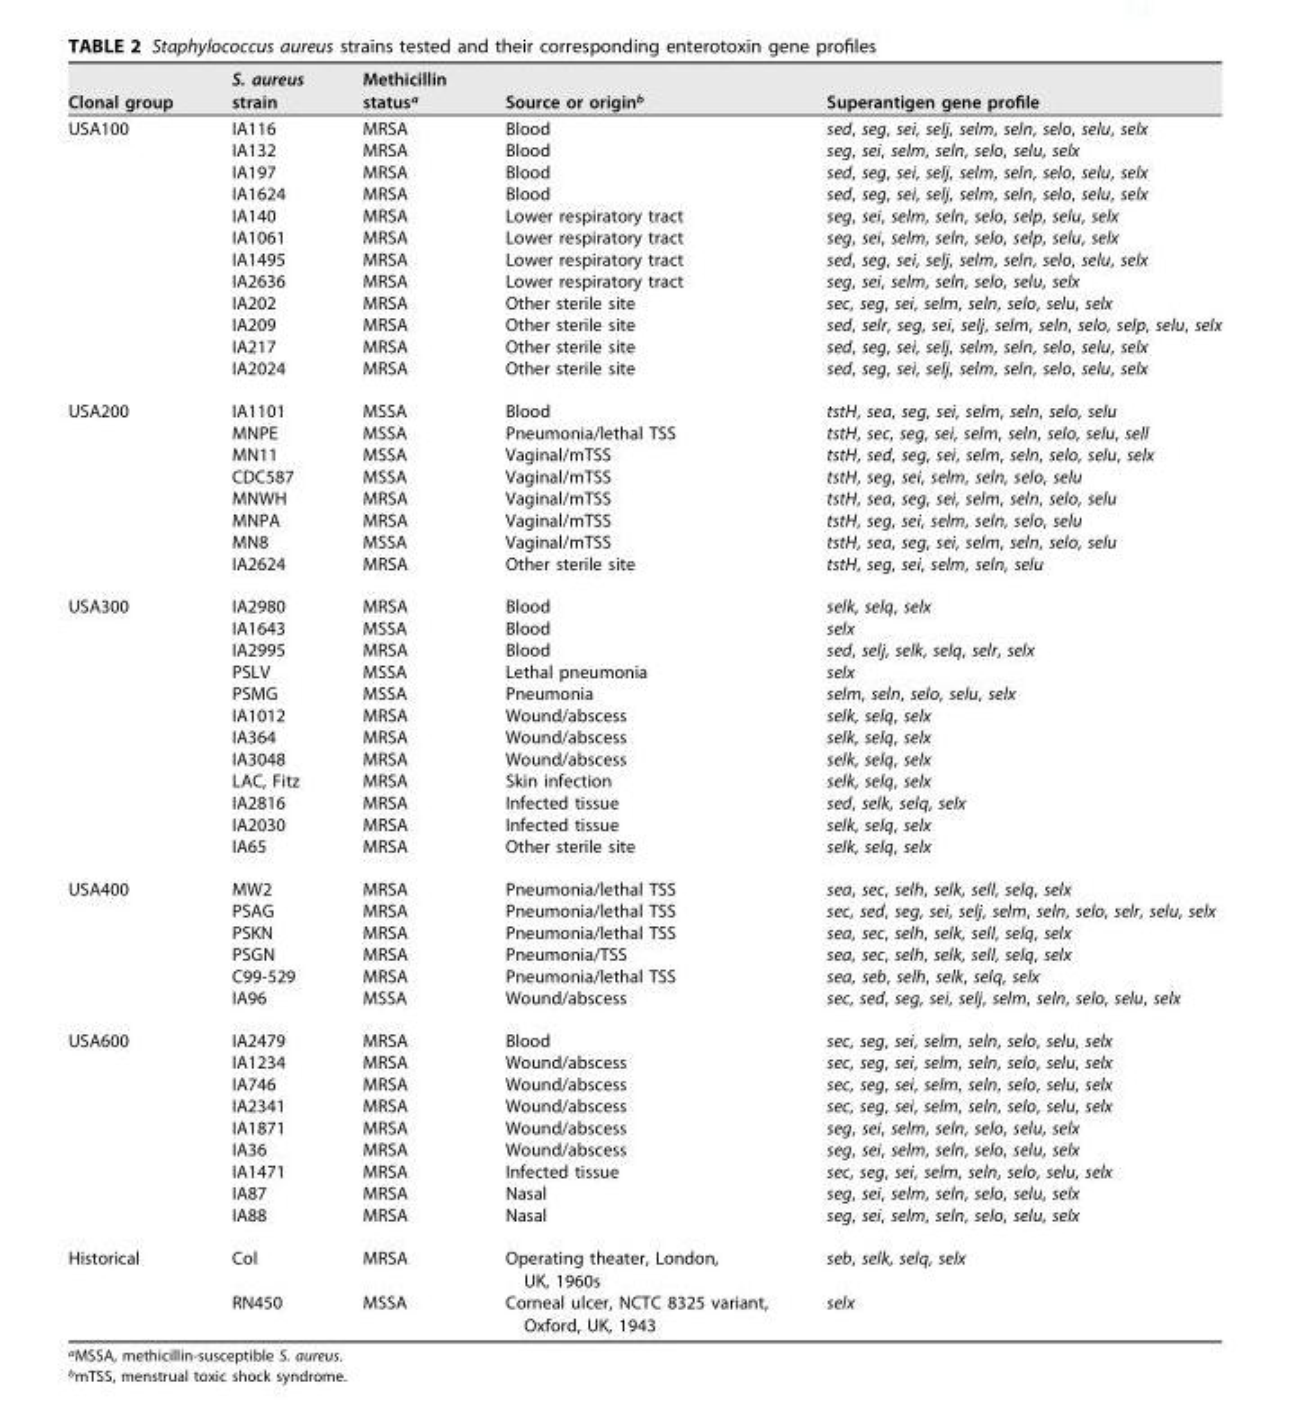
<table><thead><tr><td>Clonal group</td><td>S. aureus strain</td><td>Methicillin status<sup>a</sup></td><td>Source or origin<sup>b</sup></td><td>Superantigen gene profile</td></tr></thead><tbody><tr><td rowspan="12">USA100</td><td>IA116</td><td>MRSA</td><td>Blood</td><td>sed, seg, sei, selj, selm, seln, selo, selu, selx</td></tr><tr><td>IA132</td><td>MRSA</td><td>Blood</td><td>seg, sei, selm, seln, selo, selu, selx</td></tr><tr><td>IA197</td><td>MRSA</td><td>Blood</td><td>sed, seg, sei, selj, selm, seln, selo, selu, selx</td></tr><tr><td>IA1624</td><td>MRSA</td><td>Blood</td><td>sed, seg, sei, selj, selm, seln, selo, selu, selx</td></tr><tr><td>IA140</td><td>MRSA</td><td>Lower respiratory tract</td><td>seg, sei, selm, seln, selo, selp, selu, selx</td></tr><tr><td>IA1061</td><td>MRSA</td><td>Lower respiratory tract</td><td>seg, sei, selm, seln, selo, selp, selu, selx</td></tr><tr><td>IA1495</td><td>MRSA</td><td>Lower respiratory tract</td><td>sed, seg, sei, selj, selm, seln, selo, selu, selx</td></tr><tr><td>IA2636</td><td>MRSA</td><td>Lower respiratory tract</td><td>seg, sei, selm, seln, selo, selu, selx</td></tr><tr><td>IA202</td><td>MRSA</td><td>Other sterile site</td><td>sec, seg, sei, selm, seln, selo, selu, selx</td></tr><tr><td>IA209</td><td>MRSA</td><td>Other sterile site</td><td>sed, selr, seg, sei, selj, selm, seln, selo, selp, selu, selx</td></tr><tr><td>IA217</td><td>MRSA</td><td>Other sterile site</td><td>sed, seg, sei, selj, selm, seln, selo, selu, selx</td></tr><tr><td>IA2024</td><td>MRSA</td><td>Other sterile site</td><td>sed, seg, sei, selj, selm, seln, selo, selu, selx</td></tr><tr><td rowspan="8">USA200</td><td>IA1101</td><td>MSSA</td><td>Blood</td><td>tstH, sea, seg, sei, selm, seln, selo, selu</td></tr><tr><td>MNPE</td><td>MSSA</td><td>Pneumonia/lethal TSS</td><td>tstH, sec, seg, sei, selm, seln, selo, selu, sell</td></tr><tr><td>MN11</td><td>MSSA</td><td>Vaginal/mTSS</td><td>tstH, sed, seg, sei, selm, seln, selo, selu, selx</td></tr><tr><td>CDC587</td><td>MSSA</td><td>Vaginal/mTSS</td><td>tstH, seg, sei, selm, seln, selo, selu</td></tr><tr><td>MNWH</td><td>MRSA</td><td>Vaginal/mTSS</td><td>tstH, sea, seg, sei, selm, seln, selo, selu</td></tr><tr><td>MNPA</td><td>MRSA</td><td>Vaginal/mTSS</td><td>tstH, seg, sei, selm, seln, selo, selu</td></tr><tr><td>MN8</td><td>MSSA</td><td>Vaginal/mTSS</td><td>tstH, sea, seg, sei, selm, seln, selo, selu</td></tr><tr><td>IA2624</td><td>MRSA</td><td>Other sterile site</td><td>tstH, seg, sei, selm, seln, selu</td></tr><tr><td rowspan="12">USA300</td><td>IA2980</td><td>MRSA</td><td>Blood</td><td>selk, selq, selx</td></tr><tr><td>IA1643</td><td>MSSA</td><td>Blood</td><td>selx</td></tr><tr><td>IA2995</td><td>MRSA</td><td>Blood</td><td>sed, selj, selk, selq, selr, selx</td></tr><tr><td>PSLV</td><td>MSSA</td><td>Lethal pneumonia</td><td>selx</td></tr><tr><td>PSMG</td><td>MSSA</td><td>Pneumonia</td><td>selm, seln, selo, selu, selx</td></tr><tr><td>IA1012</td><td>MRSA</td><td>Wound/abscess</td><td>selk, selq, selx</td></tr><tr><td>IA364</td><td>MRSA</td><td>Wound/abscess</td><td>selk, selq, selx</td></tr><tr><td>IA3048</td><td>MRSA</td><td>Wound/abscess</td><td>selk, selq, selx</td></tr><tr><td>LAC, Fitz</td><td>MRSA</td><td>Skin infection</td><td>selk, selq, selx</td></tr><tr><td>IA2816</td><td>MRSA</td><td>Infected tissue</td><td>sed, selk, selq, selx</td></tr><tr><td>IA2030</td><td>MRSA</td><td>Infected tissue</td><td>selk, selq, selx</td></tr><tr><td>IA65</td><td>MRSA</td><td>Other sterile site</td><td>selk, selq, selx</td></tr><tr><td rowspan="6">USA400</td><td>MW2</td><td>MRSA</td><td>Pneumonia/lethal TSS</td><td>sea, sec, selh, selk, sell, selq, selx</td></tr><tr><td>PSAG</td><td>MRSA</td><td>Pneumonia/lethal TSS</td><td>sec, sed, seg, sei, selj, selm, seln, selo, selr, selu, selx</td></tr><tr><td>PSKN</td><td>MRSA</td><td>Pneumonia/lethal TSS</td><td>sea, sec, selh, selk, sell, selq, selx</td></tr><tr><td>PSGN</td><td>MRSA</td><td>Pneumonia/TSS</td><td>sea, sec, selh, selk, sell, selq, selx</td></tr><tr><td>C99-529</td><td>MRSA</td><td>Pneumonia/lethal TSS</td><td>sea, seb, selh, selk, selq, selx</td></tr><tr><td>IA96</td><td>MSSA</td><td>Wound/abscess</td><td>sec, sed, seg, sei, selj, selm, seln, selo, selu, selx</td></tr><tr><td rowspan="9">USA600</td><td>IA2479</td><td>MRSA</td><td>Blood</td><td>sec, seg, sei, selm, seln, selo, selu, selx</td></tr><tr><td>IA1234</td><td>MRSA</td><td>Wound/abscess</td><td>sec, seg, sei, selm, seln, selo, selu, selx</td></tr><tr><td>IA746</td><td>MRSA</td><td>Wound/abscess</td><td>sec, seg, sei, selm, seln, selo, selu, selx</td></tr><tr><td>IA2341</td><td>MRSA</td><td>Wound/abscess</td><td>sec, seg, sei, selm, seln, selo, selu, selx</td></tr><tr><td>IA1871</td><td>MRSA</td><td>Wound/abscess</td><td>seg, sei, selm, seln, selo, selu, selx</td></tr><tr><td>IA36</td><td>MRSA</td><td>Wound/abscess</td><td>seg, sei, selm, seln, selo, selu, selx</td></tr><tr><td>IA1471</td><td>MRSA</td><td>Infected tissue</td><td>sec, seg, sei, selm, seln, selo, selu, selx</td></tr><tr><td>IA87</td><td>MRSA</td><td>Nasal</td><td>seg, sei, selm, seln, selo, selu, selx</td></tr><tr><td>IA88</td><td>MRSA</td><td>Nasal</td><td>seg, sei, selm, seln, selo, selu, selx</td></tr><tr><td rowspan="2">Historical</td><td>Col</td><td>MRSA</td><td>Operating theater, London, UK, 1960s</td><td>seb, selk, selq, selx</td></tr><tr><td>RN450</td><td>MSSA</td><td>Corneal ulcer, NCTC 8325 variant, Oxford, UK, 1943</td><td>selx</td></tr></tbody></table>